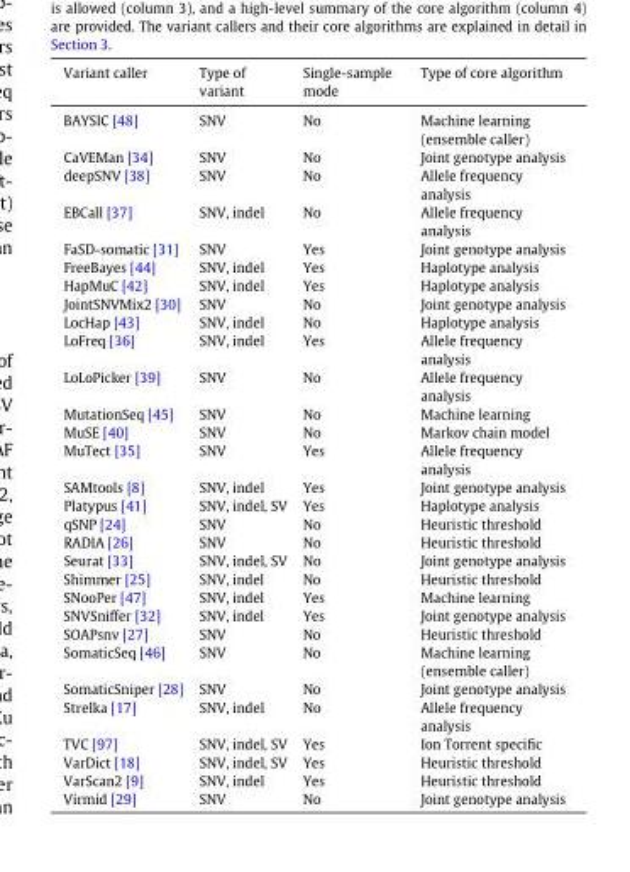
<table><thead><tr><td>Variant caller</td><td>Type of variant</td><td>Single-sample mode</td><td>Type of core algorithm</td></tr></thead><tbody><tr><td>BAYSIC [48]</td><td>SNV</td><td>No</td><td>Machine learning (ensemble caller)</td></tr><tr><td>CaVEMan [34]</td><td>SNV</td><td>No</td><td>Joint genotype analysis</td></tr><tr><td>deepSNV [38]</td><td>SNV</td><td>No</td><td>Allele frequency analysis</td></tr><tr><td>EBCall [37]</td><td>SNV, indel</td><td>No</td><td>Allele frequency analysis</td></tr><tr><td>FaSD-somatic [31]</td><td>SNV</td><td>Yes</td><td>Joint genotype analysis</td></tr><tr><td>FreeBayes [44]</td><td>SNV, indel</td><td>Yes</td><td>Haplotype analysis</td></tr><tr><td>HapMuC [42]</td><td>SNV, indel</td><td>Yes</td><td>Haplotype analysis</td></tr><tr><td>JointSNVMix2 [30]</td><td>SNV</td><td>No</td><td>Joint genotype analysis</td></tr><tr><td>LocHap [43]</td><td>SNV, indel</td><td>No</td><td>Haplotype analysis</td></tr><tr><td>LoFreq [36]</td><td>SNV, indel</td><td>Yes</td><td>Allele frequency analysis</td></tr><tr><td>LoLoPicker [39]</td><td>SNV</td><td>No</td><td>Allele frequency analysis</td></tr><tr><td>MutationSeq [45]</td><td>SNV</td><td>No</td><td>Machine learning</td></tr><tr><td>MuSE [40]</td><td>SNV</td><td>No</td><td>Markov chain model</td></tr><tr><td>MuTect [35]</td><td>SNV</td><td>Yes</td><td>Allele frequency analysis</td></tr><tr><td>SAMtools [8]</td><td>SNV, indel</td><td>Yes</td><td>Joint genotype analysis</td></tr><tr><td>Platypus [41]</td><td>SNV, indel, SV</td><td>Yes</td><td>Haplotype analysis</td></tr><tr><td>qSNP [24]</td><td>SNV</td><td>No</td><td>Heuristic threshold</td></tr><tr><td>RADIA [26]</td><td>SNV</td><td>No</td><td>Heuristic threshold</td></tr><tr><td>Seurat [33]</td><td>SNV, indel, SV</td><td>No</td><td>Joint genotype analysis</td></tr><tr><td>Shimmer [25]</td><td>SNV, indel</td><td>No</td><td>Heuristic threshold</td></tr><tr><td>SNooPer [47]</td><td>SNV, indel</td><td>Yes</td><td>Machine learning</td></tr><tr><td>SNVSniffer [32]</td><td>SNV, indel</td><td>Yes</td><td>Joint genotype analysis</td></tr><tr><td>SOAPsnv [27]</td><td>SNV</td><td>No</td><td>Heuristic threshold</td></tr><tr><td>SomaticSeq [46]</td><td>SNV</td><td>No</td><td>Machine learning (ensemble caller)</td></tr><tr><td>SomaticSniper [28]</td><td>SNV</td><td>No</td><td>Joint genotype analysis</td></tr><tr><td>Strelka [17]</td><td>SNV, indel</td><td>No</td><td>Allele frequency analysis</td></tr><tr><td>TVC [97]</td><td>SNV, indel, SV</td><td>Yes</td><td>Ion Torrent specific</td></tr><tr><td>VarDict [18]</td><td>SNV, indel, SV</td><td>Yes</td><td>Heuristic threshold</td></tr><tr><td>VarScan2 [9]</td><td>SNV, indel</td><td>Yes</td><td>Heuristic threshold</td></tr><tr><td>Virmid [29]</td><td>SNV</td><td>No</td><td>Joint genotype analysis</td></tr></tbody></table>